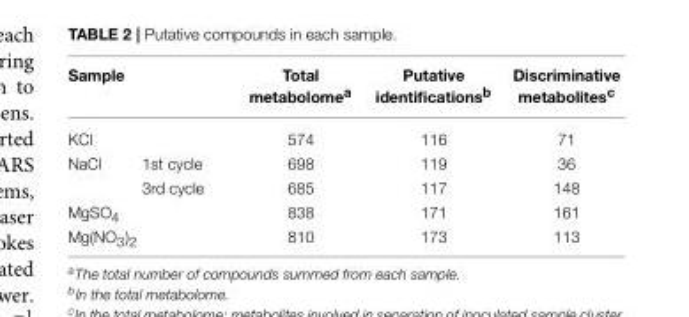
<table><thead><tr><td>Sample</td><td></td><td>Total metabolome<sup>a</sup></td><td>Putative identifications<sup>b</sup></td><td>Discriminative metabolites<sup>c</sup></td></tr></thead><tbody><tr><td>KCl</td><td></td><td>574</td><td>116</td><td>71</td></tr><tr><td rowspan="2">NaCl</td><td>1st cycle</td><td>698</td><td>119</td><td>36</td></tr><tr><td>3rd cycle</td><td>685</td><td>117</td><td>148</td></tr><tr><td>MgSO<sub>4</sub></td><td></td><td>838</td><td>171</td><td>161</td></tr><tr><td>Mg(NO<sub>3</sub>)<sub>2</sub></td><td></td><td>810</td><td>173</td><td>113</td></tr></tbody></table>